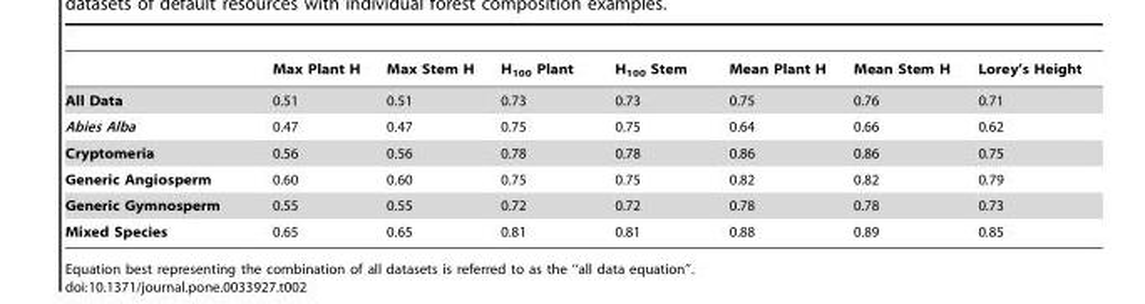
<table><thead><tr><td></td><td>Max Plant H</td><td>Max Stem H</td><td>H<sub>100</sub> Plant</td><td>H<sub>100</sub> Stem</td><td>Mean Plant H</td><td>Mean Stem H</td><td>Lorey’s Height</td></tr></thead><tbody><tr><td>All Data</td><td>0.51</td><td>0.51</td><td>0.73</td><td>0.73</td><td>0.75</td><td>0.76</td><td>0.71</td></tr><tr><td>Abies Alba</td><td>0.47</td><td>0.47</td><td>0.75</td><td>0.75</td><td>0.64</td><td>0.66</td><td>0.62</td></tr><tr><td>Cryptomeria</td><td>0.56</td><td>0.56</td><td>0.78</td><td>0.78</td><td>0.86</td><td>0.86</td><td>0.75</td></tr><tr><td>Generic Angiosperm</td><td>0.60</td><td>0.60</td><td>0.75</td><td>0.75</td><td>0.82</td><td>0.82</td><td>0.79</td></tr><tr><td>Generic Gymnosperm</td><td>0.55</td><td>0.55</td><td>0.72</td><td>0.72</td><td>0.78</td><td>0.78</td><td>0.73</td></tr><tr><td>Mixed Species</td><td>0.65</td><td>0.65</td><td>0.81</td><td>0.81</td><td>0.88</td><td>0.89</td><td>0.85</td></tr></tbody></table>